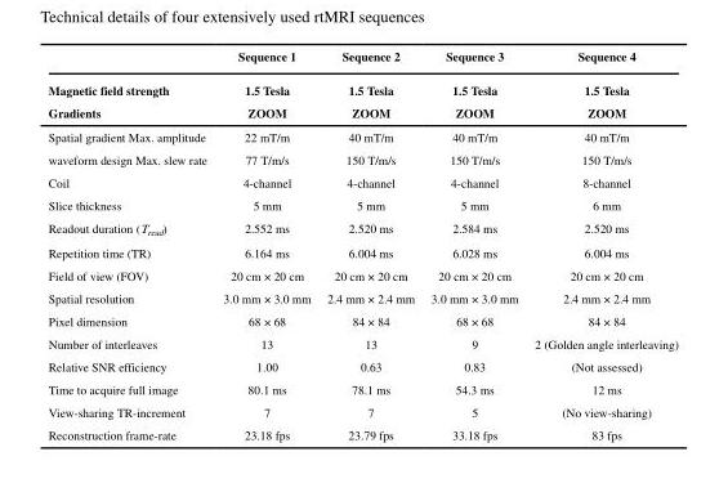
<table><thead><tr><td rowspan="3">Magnetic field strength Gradients</td><td rowspan="3">Sequence 1 1.5 Tesla ZOOM</td><td rowspan="3">Sequence 2 1.5 Tesla ZOOM</td><td rowspan="3">Sequence 3 1.5 Tesla ZOOM</td><td rowspan="3">Sequence 4 1.5 Tesla ZOOM</td></tr><tr></tr><tr></tr></thead><tbody><tr><td>Spatial gradient Max. amplitude</td><td>22 mT/m</td><td>40 mT/m</td><td>40 mT/m</td><td>40 mT/m</td></tr><tr><td>waveform design Max. slew rate</td><td>77 T/m/s</td><td>150 T/m/s</td><td>150 T/m/s</td><td>150 T/m/s</td></tr><tr><td>Coil</td><td>4-channel</td><td>4-channel</td><td>4-channel</td><td>8-channel</td></tr><tr><td>Slice thickness</td><td>5 mm</td><td>5 mm</td><td>5 mm</td><td>6 mm</td></tr><tr><td>Readout duration (T<sub>read</sub>)</td><td>2.552 ms</td><td>2.520 ms</td><td>2.584 ms</td><td>2.520 ms</td></tr><tr><td>Repetition time (TR)</td><td>6.164 ms</td><td>6.004 ms</td><td>6.028 ms</td><td>6.004 ms</td></tr><tr><td>Field of view (FOV)</td><td>20 cm × 20 cm</td><td>20 cm × 20 cm</td><td>20 cm × 20 cm</td><td>20 cm × 20 cm</td></tr><tr><td>Spatial resolution</td><td>3.0 mm × 3.0 mm</td><td>2.4 mm × 2.4 mm</td><td>3.0 mm × 3.0 mm</td><td>2.4 mm × 2.4 mm</td></tr><tr><td>Pixel dimension</td><td>68 × 68</td><td>84 × 84</td><td>68 × 68</td><td>84 × 84</td></tr><tr><td>Number of interleaves</td><td>13</td><td>13</td><td>9</td><td>2 (Golden angle interleaving)</td></tr><tr><td>Relative SNR efficiency</td><td>1.00</td><td>0.63</td><td>0.83</td><td>(Not assessed)</td></tr><tr><td>Time to acquire full image</td><td>80.1 ms</td><td>78.1 ms</td><td>54.3 ms</td><td>12 ms</td></tr><tr><td>View-sharing TR-increment</td><td>7</td><td>7</td><td>5</td><td>(No view-sharing)</td></tr><tr><td>Reconstruction frame-rate</td><td>23.18 fps</td><td>23.79 fps</td><td>33.18 fps</td><td>83 fps</td></tr></tbody></table>